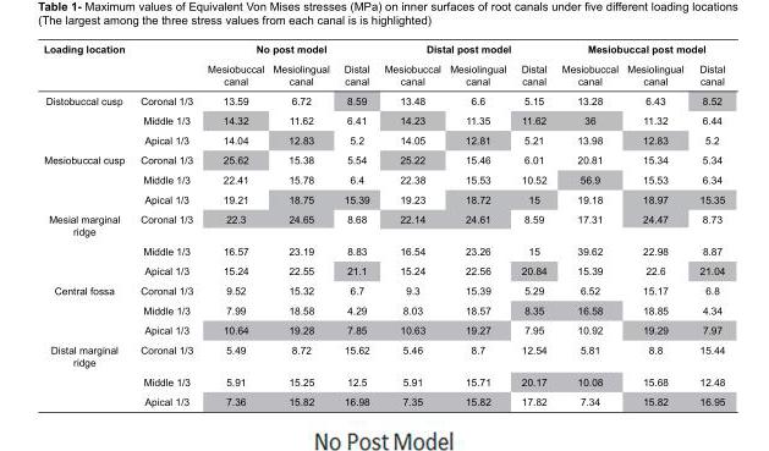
<table><thead><tr><td rowspan="2">Loading location</td><td rowspan="2"></td><td colspan="3">No post model</td><td colspan="3">Distal post model</td><td colspan="3">Mesiobuccal post model</td></tr><tr><td>Mesiobuccal canal</td><td>Mesiolingual canal</td><td>Distal canal</td><td>Mesiobuccal canal</td><td>Mesiolingual canal</td><td>Distal canal</td><td>Mesiobuccal canal</td><td>Mesiolingual canal</td><td>Distal canal</td></tr></thead><tbody><tr><td rowspan="3">Distobuccal cusp</td><td>Coronal 1/3</td><td>13.59</td><td>6.72</td><td>8.59</td><td>13.48</td><td>6.6</td><td>5.15</td><td>13.28</td><td>6.43</td><td>8.52</td></tr><tr><td>Middle 1/3</td><td>14.32</td><td>11.62</td><td>6.41</td><td>14.23</td><td>11.35</td><td>11.62</td><td>36</td><td>11.32</td><td>6.44</td></tr><tr><td>Apical 1/3</td><td>14.04</td><td>12.83</td><td>5.2</td><td>14.05</td><td>12.81</td><td>5.21</td><td>13.98</td><td>12.83</td><td>5.2</td></tr><tr><td rowspan="3">Mesiobuccal cusp</td><td>Coronal 1/3</td><td>25.62</td><td>15.38</td><td>5.54</td><td>25.22</td><td>15.46</td><td>6.01</td><td>20.81</td><td>15.34</td><td>5.34</td></tr><tr><td>Middle 1/3</td><td>22.41</td><td>15.78</td><td>6.4</td><td>22.38</td><td>15.53</td><td>10.52</td><td>56.9</td><td>15.53</td><td>6.34</td></tr><tr><td>Apical 1/3</td><td>19.21</td><td>18.75</td><td>15.39</td><td>19.23</td><td>18.72</td><td>15</td><td>19.18</td><td>18.97</td><td>15.35</td></tr><tr><td rowspan="3">Mesial marginal ridge</td><td>Coronal 1/3</td><td>22.3</td><td>24.65</td><td>8.68</td><td>22.14</td><td>24.61</td><td>8.59</td><td>17.31</td><td>24.47</td><td>8.73</td></tr><tr><td>Middle 1/3</td><td>16.57</td><td>23.19</td><td>8.83</td><td>16.54</td><td>23.26</td><td>15</td><td>39.62</td><td>22.98</td><td>8.87</td></tr><tr><td>Apical 1/3</td><td>15.24</td><td>22.55</td><td>21.1</td><td>15.24</td><td>22.56</td><td>20.84</td><td>15.39</td><td>22.6</td><td>21.04</td></tr><tr><td rowspan="3">Central fossa</td><td>Coronal 1/3</td><td>9.52</td><td>15.32</td><td>6.7</td><td>9.3</td><td>15.39</td><td>5.29</td><td>6.52</td><td>15.17</td><td>6.8</td></tr><tr><td>Middle 1/3</td><td>7.99</td><td>18.58</td><td>4.29</td><td>8.03</td><td>18.57</td><td>8.35</td><td>16.58</td><td>18.85</td><td>4.34</td></tr><tr><td>Apical 1/3</td><td>10.64</td><td>19.28</td><td>7.85</td><td>10.63</td><td>19.27</td><td>7.95</td><td>10.92</td><td>19.29</td><td>7.97</td></tr><tr><td rowspan="3">Distal marginal ridge</td><td>Coronal 1/3</td><td>5.49</td><td>8.72</td><td>15.62</td><td>5.46</td><td>8.7</td><td>12.54</td><td>5.81</td><td>8.8</td><td>15.44</td></tr><tr><td>Middle 1/3</td><td>5.91</td><td>15.25</td><td>12.5</td><td>5.91</td><td>15.71</td><td>20.17</td><td>10.08</td><td>15.68</td><td>12.48</td></tr><tr><td>Apical 1/3</td><td>7.36</td><td>15.82</td><td>16.98</td><td>7.35</td><td>15.82</td><td>17.82</td><td>7.34</td><td>15.82</td><td>16.95</td></tr></tbody></table>